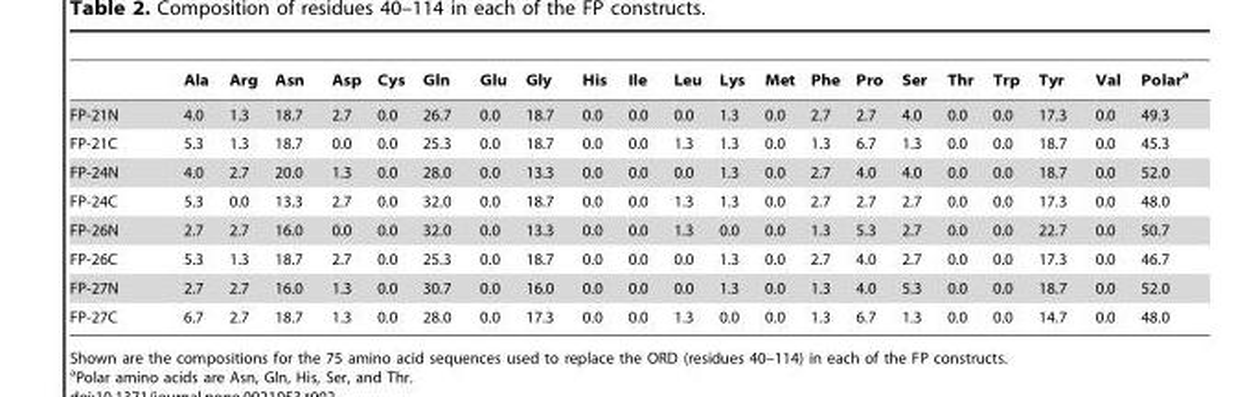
<table><thead><tr><td></td><td>Ala</td><td>Arg</td><td>Asn</td><td>Asp</td><td>Cys</td><td>Gln</td><td>Glu</td><td>Gly</td><td>His</td><td>Ile</td><td>Leu</td><td>Lys</td><td>Met</td><td>Phe</td><td>Pro</td><td>Ser</td><td>Thr</td><td>Trp</td><td>Tyr</td><td>Val</td><td>Polar<sup>a</sup></td></tr></thead><tbody><tr><td>FP-21N</td><td>4.0</td><td>1.3</td><td>18.7</td><td>2.7</td><td>0.0</td><td>26.7</td><td>0.0</td><td>18.7</td><td>0.0</td><td>0.0</td><td>0.0</td><td>1.3</td><td>0.0</td><td>2.7</td><td>2.7</td><td>4.0</td><td>0.0</td><td>0.0</td><td>17.3</td><td>0.0</td><td>49.3</td></tr><tr><td>FP-21C</td><td>5.3</td><td>1.3</td><td>18.7</td><td>0.0</td><td>0.0</td><td>25.3</td><td>0.0</td><td>18.7</td><td>0.0</td><td>0.0</td><td>1.3</td><td>1.3</td><td>0.0</td><td>1.3</td><td>6.7</td><td>1.3</td><td>0.0</td><td>0.0</td><td>18.7</td><td>0.0</td><td>45.3</td></tr><tr><td>FP-24N</td><td>4.0</td><td>2.7</td><td>20.0</td><td>1.3</td><td>0.0</td><td>28.0</td><td>0.0</td><td>13.3</td><td>0.0</td><td>0.0</td><td>0.0</td><td>1.3</td><td>0.0</td><td>2.7</td><td>4.0</td><td>4.0</td><td>0.0</td><td>0.0</td><td>18.7</td><td>0.0</td><td>52.0</td></tr><tr><td>FP-24C</td><td>5.3</td><td>0.0</td><td>13.3</td><td>2.7</td><td>0.0</td><td>32.0</td><td>0.0</td><td>18.7</td><td>0.0</td><td>0.0</td><td>1.3</td><td>1.3</td><td>0.0</td><td>2.7</td><td>2.7</td><td>2.7</td><td>0.0</td><td>0.0</td><td>17.3</td><td>0.0</td><td>48.0</td></tr><tr><td>FP-26N</td><td>2.7</td><td>2.7</td><td>16.0</td><td>0.0</td><td>0.0</td><td>32.0</td><td>0.0</td><td>13.3</td><td>0.0</td><td>0.0</td><td>1.3</td><td>0.0</td><td>0.0</td><td>1.3</td><td>5.3</td><td>2.7</td><td>0.0</td><td>0.0</td><td>22.7</td><td>0.0</td><td>50.7</td></tr><tr><td>FP-26C</td><td>5.3</td><td>1.3</td><td>18.7</td><td>2.7</td><td>0.0</td><td>25.3</td><td>0.0</td><td>18.7</td><td>0.0</td><td>0.0</td><td>0.0</td><td>1.3</td><td>0.0</td><td>2.7</td><td>4.0</td><td>2.7</td><td>0.0</td><td>0.0</td><td>17.3</td><td>0.0</td><td>46.7</td></tr><tr><td>FP-27N</td><td>2.7</td><td>2.7</td><td>16.0</td><td>1.3</td><td>0.0</td><td>30.7</td><td>0.0</td><td>16.0</td><td>0.0</td><td>0.0</td><td>0.0</td><td>1.3</td><td>0.0</td><td>1.3</td><td>4.0</td><td>5.3</td><td>0.0</td><td>0.0</td><td>18.7</td><td>0.0</td><td>52.0</td></tr><tr><td>FP-27C</td><td>6.7</td><td>2.7</td><td>18.7</td><td>1.3</td><td>0.0</td><td>28.0</td><td>0.0</td><td>17.3</td><td>0.0</td><td>0.0</td><td>1.3</td><td>0.0</td><td>0.0</td><td>1.3</td><td>6.7</td><td>1.3</td><td>0.0</td><td>0.0</td><td>14.7</td><td>0.0</td><td>48.0</td></tr></tbody></table>